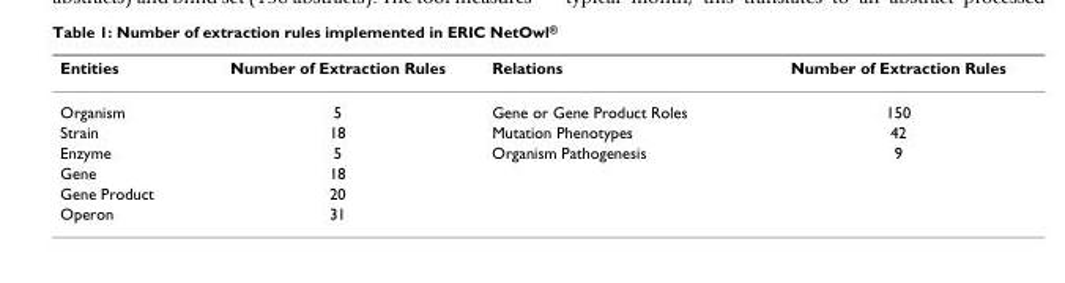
<table><thead><tr><td>Entities</td><td>Number of Extraction Rules</td><td>Relations</td><td>Number of Extraction Rules</td></tr></thead><tbody><tr><td>Organism</td><td>5</td><td>Gene or Gene Product Roles</td><td>150</td></tr><tr><td>Strain</td><td>18</td><td>Mutation Phenotypes</td><td>42</td></tr><tr><td>Enzyme</td><td>5</td><td>Organism Pathogenesis</td><td>9</td></tr><tr><td>Gene</td><td>18</td><td></td><td></td></tr><tr><td>Gene Product</td><td>20</td><td></td><td></td></tr><tr><td>Operon</td><td>31</td><td></td><td></td></tr></tbody></table>